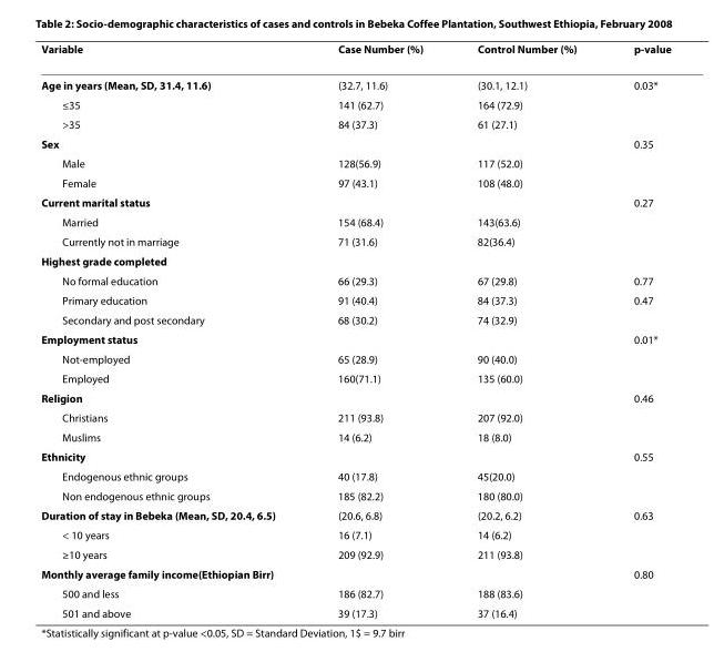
<table><thead><tr><td>Variable</td><td>Case Number (%)</td><td>Control Number (%)</td><td>p-value</td></tr></thead><tbody><tr><td>Age in years (Mean, SD, 31.4, 11.6)</td><td>(32.7, 11.6)</td><td>(30.1, 12.1)</td><td>0.03*</td></tr><tr><td>≤35</td><td>141 (62.7)</td><td>164 (72.9)</td><td></td></tr><tr><td>&gt;35</td><td>84 (37.3)</td><td>61 (27.1)</td><td></td></tr><tr><td>Sex</td><td></td><td></td><td>0.35</td></tr><tr><td>Male</td><td>128(56.9)</td><td>117 (52.0)</td><td></td></tr><tr><td>Female</td><td>97 (43.1)</td><td>108 (48.0)</td><td></td></tr><tr><td>Current marital status</td><td></td><td></td><td>0.27</td></tr><tr><td>Married</td><td>154 (68.4)</td><td>143(63.6)</td><td></td></tr><tr><td>Currently not in marriage</td><td>71 (31.6)</td><td>82(36.4)</td><td></td></tr><tr><td colspan="4">Highest grade completed</td></tr><tr><td>No formal education</td><td>66 (29.3)</td><td>67 (29.8)</td><td>0.77</td></tr><tr><td>Primary education</td><td>91 (40.4)</td><td>84 (37.3)</td><td>0.47</td></tr><tr><td>Secondary and post secondary</td><td>68 (30.2)</td><td>74 (32.9)</td><td></td></tr><tr><td>Employment status</td><td></td><td></td><td>0.01*</td></tr><tr><td>Not-employed</td><td>65 (28.9)</td><td>90 (40.0)</td><td></td></tr><tr><td>Employed</td><td>160(71.1)</td><td>135 (60.0)</td><td></td></tr><tr><td>Religion</td><td></td><td></td><td>0.46</td></tr><tr><td>Christians</td><td>211 (93.8)</td><td>207 (92.0)</td><td></td></tr><tr><td>Muslims</td><td>14 (6.2)</td><td>18 (8.0)</td><td></td></tr><tr><td>Ethnicity</td><td></td><td></td><td>0.55</td></tr><tr><td>Endogenous ethnic groups</td><td>40 (17.8)</td><td>45(20.0)</td><td></td></tr><tr><td>Non endogenous ethnic groups</td><td>185 (82.2)</td><td>180 (80.0)</td><td></td></tr><tr><td>Duration of stay in Bebeka (Mean, SD, 20.4, 6.5)</td><td>(20.6, 6.8)</td><td>(20.2, 6.2)</td><td>0.63</td></tr><tr><td>&lt; 10 years</td><td>16 (7.1)</td><td>14 (6.2)</td><td></td></tr><tr><td>≥10 years</td><td>209 (92.9)</td><td>211 (93.8)</td><td></td></tr><tr><td>Monthly average family income(Ethiopian Birr)</td><td></td><td></td><td>0.80</td></tr><tr><td>500 and less</td><td>186 (82.7)</td><td>188 (83.6)</td><td></td></tr><tr><td>501 and above</td><td>39 (17.3)</td><td>37 (16.4)</td><td></td></tr></tbody></table>